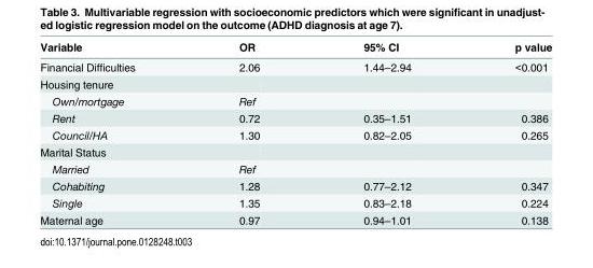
<table><thead><tr><td>Variable</td><td>OR</td><td>95% CI</td><td>p value</td></tr></thead><tbody><tr><td>Financial Difficulties</td><td>2.06</td><td>1.44–2.94</td><td>&lt;0.001</td></tr><tr><td colspan="4">Housing tenure</td></tr><tr><td>Own/mortgage</td><td>Ref</td><td></td><td></td></tr><tr><td>Rent</td><td>0.72</td><td>0.35–1.51</td><td>0.386</td></tr><tr><td>Council/HA</td><td>1.30</td><td>0.82–2.05</td><td>0.265</td></tr><tr><td colspan="4">Marital Status</td></tr><tr><td>Married</td><td>Ref</td><td></td><td></td></tr><tr><td>Cohabiting</td><td>1.28</td><td>0.77–2.12</td><td>0.347</td></tr><tr><td>Single</td><td>1.35</td><td>0.83–2.18</td><td>0.224</td></tr><tr><td>Maternal age</td><td>0.97</td><td>0.94–1.01</td><td>0.138</td></tr></tbody></table>